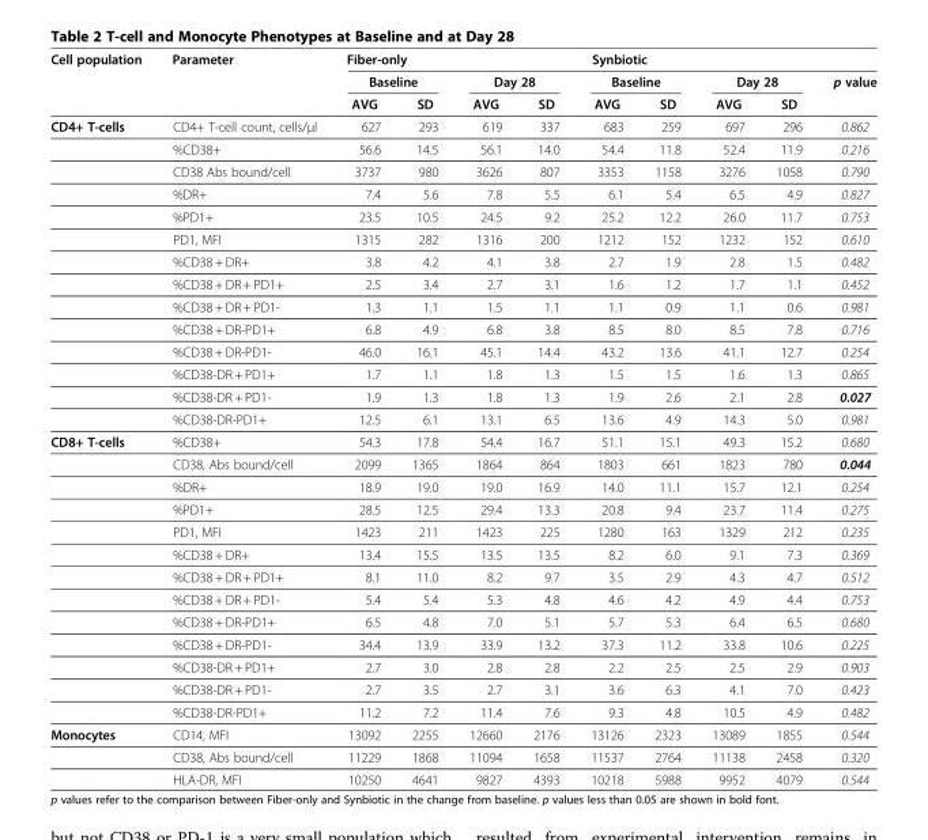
<table><thead><tr><td rowspan="3">Cell population</td><td rowspan="3">Parameter</td><td colspan="4">Fiber-only</td><td colspan="4">Synbiotic</td><td rowspan="3">p value</td></tr><tr><td colspan="2">Baseline</td><td colspan="2">Day 28</td><td colspan="2">Baseline</td><td colspan="2">Day 28</td></tr><tr><td>AVG</td><td>SD</td><td>AVG</td><td>SD</td><td>AVG</td><td>SD</td><td>AVG</td><td>SD</td></tr></thead><tbody><tr><td rowspan="14">CD4+ T-cells</td><td>CD4+ T-cell count, cells/μl</td><td>627</td><td>293</td><td>619</td><td>337</td><td>683</td><td>259</td><td>697</td><td>296</td><td>0.862</td></tr><tr><td>%CD38+</td><td>56.6</td><td>14.5</td><td>56.1</td><td>14.0</td><td>54.4</td><td>11.8</td><td>52.4</td><td>11.9</td><td>0.216</td></tr><tr><td>CD38 Abs bound/cell</td><td>3737</td><td>980</td><td>3626</td><td>807</td><td>3353</td><td>1158</td><td>3276</td><td>1058</td><td>0.790</td></tr><tr><td>%DR+</td><td>7.4</td><td>5.6</td><td>7.8</td><td>5.5</td><td>6.1</td><td>5.4</td><td>6.5</td><td>4.9</td><td>0.827</td></tr><tr><td>%PD1+</td><td>23.5</td><td>10.5</td><td>24.5</td><td>9.2</td><td>25.2</td><td>12.2</td><td>26.0</td><td>11.7</td><td>0.753</td></tr><tr><td>PD1, MFI</td><td>1315</td><td>282</td><td>1316</td><td>200</td><td>1212</td><td>152</td><td>1232</td><td>152</td><td>0.610</td></tr><tr><td>%CD38 + DR+</td><td>3.8</td><td>4.2</td><td>4.1</td><td>3.8</td><td>2.7</td><td>1.9</td><td>2.8</td><td>1.5</td><td>0.482</td></tr><tr><td>%CD38 + DR + PD1+</td><td>2.5</td><td>3.4</td><td>2.7</td><td>3.1</td><td>1.6</td><td>1.2</td><td>1.7</td><td>1.1</td><td>0.452</td></tr><tr><td>%CD38 + DR + PD1-</td><td>1.3</td><td>1.1</td><td>1.5</td><td>1.1</td><td>1.1</td><td>0.9</td><td>1.1</td><td>0.6</td><td>0.981</td></tr><tr><td>%CD38 + DR-PD1+</td><td>6.8</td><td>4.9</td><td>6.8</td><td>3.8</td><td>8.5</td><td>8.0</td><td>8.5</td><td>7.8</td><td>0.716</td></tr><tr><td>%CD38 + DR-PD1-</td><td>46.0</td><td>16.1</td><td>45.1</td><td>14.4</td><td>43.2</td><td>13.6</td><td>41.1</td><td>12.7</td><td>0.254</td></tr><tr><td>%CD38-DR + PD1+</td><td>1.7</td><td>1.1</td><td>1.8</td><td>1.3</td><td>1.5</td><td>1.5</td><td>1.6</td><td>1.3</td><td>0.865</td></tr><tr><td>%CD38-DR + PD1-</td><td>1.9</td><td>1.3</td><td>1.8</td><td>1.3</td><td>1.9</td><td>2.6</td><td>2.1</td><td>2.8</td><td>0.027</td></tr><tr><td>%CD38-DR-PD1+</td><td>12.5</td><td>6.1</td><td>13.1</td><td>6.5</td><td>13.6</td><td>4.9</td><td>14.3</td><td>5.0</td><td>0.981</td></tr><tr><td rowspan="13">CD8+ T-cells</td><td>%CD38+</td><td>54.3</td><td>17.8</td><td>54.4</td><td>16.7</td><td>51.1</td><td>15.1</td><td>49.3</td><td>15.2</td><td>0.680</td></tr><tr><td>CD38, Abs bound/cell</td><td>2099</td><td>1365</td><td>1864</td><td>864</td><td>1803</td><td>661</td><td>1823</td><td>780</td><td>0.044</td></tr><tr><td>%DR+</td><td>18.9</td><td>19.0</td><td>19.0</td><td>16.9</td><td>14.0</td><td>11.1</td><td>15.7</td><td>12.1</td><td>0.254</td></tr><tr><td>%PD1+</td><td>28.5</td><td>12.5</td><td>29.4</td><td>13.3</td><td>20.8</td><td>9.4</td><td>23.7</td><td>11.4</td><td>0.275</td></tr><tr><td>PD1, MFI</td><td>1423</td><td>211</td><td>1423</td><td>225</td><td>1280</td><td>163</td><td>1329</td><td>212</td><td>0.235</td></tr><tr><td>%CD38 + DR+</td><td>13.4</td><td>15.5</td><td>13.5</td><td>13.5</td><td>8.2</td><td>6.0</td><td>9.1</td><td>7.3</td><td>0.369</td></tr><tr><td>%CD38 + DR + PD1+</td><td>8.1</td><td>11.0</td><td>8.2</td><td>9.7</td><td>3.5</td><td>2.9</td><td>4.3</td><td>4.7</td><td>0.512</td></tr><tr><td>%CD38 + DR + PD1-</td><td>5.4</td><td>5.4</td><td>5.3</td><td>4.8</td><td>4.6</td><td>4.2</td><td>4.9</td><td>4.4</td><td>0.753</td></tr><tr><td>%CD38 + DR-PD1+</td><td>6.5</td><td>4.8</td><td>7.0</td><td>5.1</td><td>5.7</td><td>5.3</td><td>6.4</td><td>6.5</td><td>0.680</td></tr><tr><td>%CD38 + DR-PD1-</td><td>34.4</td><td>13.9</td><td>33.9</td><td>13.2</td><td>37.3</td><td>11.2</td><td>33.8</td><td>10.6</td><td>0.225</td></tr><tr><td>%CD38-DR + PD1+</td><td>2.7</td><td>3.0</td><td>2.8</td><td>2.8</td><td>2.2</td><td>2.5</td><td>2.5</td><td>2.9</td><td>0.903</td></tr><tr><td>%CD38-DR + PD1-</td><td>2.7</td><td>3.5</td><td>2.7</td><td>3.1</td><td>3.6</td><td>6.3</td><td>4.1</td><td>7.0</td><td>0.423</td></tr><tr><td>%CD38-DR-PD1+</td><td>11.2</td><td>7.2</td><td>11.4</td><td>7.6</td><td>9.3</td><td>4.8</td><td>10.5</td><td>4.9</td><td>0.482</td></tr><tr><td rowspan="3">Monocytes</td><td>CD14, MFI</td><td>13092</td><td>2255</td><td>12660</td><td>2176</td><td>13126</td><td>2323</td><td>13089</td><td>1855</td><td>0.544</td></tr><tr><td>CD38, Abs bound/cell</td><td>11229</td><td>1868</td><td>11094</td><td>1658</td><td>11537</td><td>2764</td><td>11138</td><td>2458</td><td>0.320</td></tr><tr><td>HLA-DR, MFI</td><td>10250</td><td>4641</td><td>9827</td><td>4393</td><td>10218</td><td>5988</td><td>9952</td><td>4079</td><td>0.544</td></tr></tbody></table>